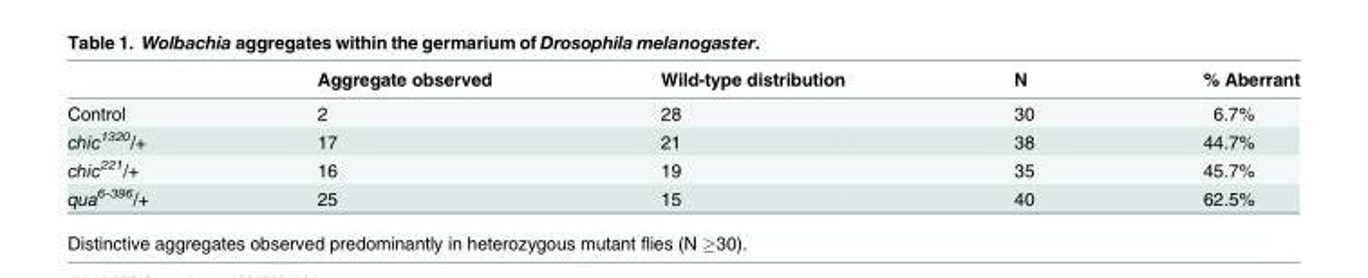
<table><thead><tr><td></td><td>Aggregate observed</td><td>Wild-type distribution</td><td>N</td><td>% Aberrant</td></tr></thead><tbody><tr><td>Control</td><td>2</td><td>28</td><td>30</td><td>6.7%</td></tr><tr><td>chic<sup>1320</sup>/+</td><td>17</td><td>21</td><td>38</td><td>44.7%</td></tr><tr><td>chic<sup>221</sup>/+</td><td>16</td><td>19</td><td>35</td><td>45.7%</td></tr><tr><td>qua<sup>6-396</sup>/+</td><td>25</td><td>15</td><td>40</td><td>62.5%</td></tr></tbody></table>